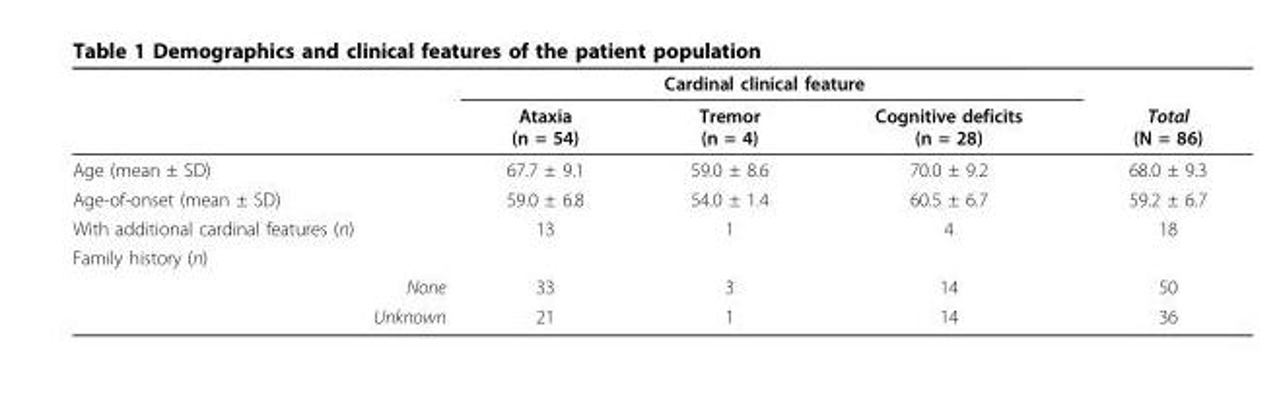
<table><thead><tr><td rowspan="2"></td><td colspan="3">Cardinal clinical feature</td><td rowspan="2">Total (N = 86)</td></tr><tr><td>Ataxia (n = 54)</td><td>Tremor (n = 4)</td><td>Cognitive deficits (n = 28)</td></tr></thead><tbody><tr><td>Age (mean ± SD)</td><td>67.7 ± 9.1</td><td>59.0 ± 8.6</td><td>70.0 ± 9.2</td><td>68.0 ± 9.3</td></tr><tr><td>Age-of-onset (mean ± SD)</td><td>59.0 ± 6.8</td><td>54.0 ± 1.4</td><td>60.5 ± 6.7</td><td>59.2 ± 6.7</td></tr><tr><td>With additional cardinal features (n)</td><td>13</td><td>1</td><td>4</td><td>18</td></tr><tr><td colspan="5">Family history (n)</td></tr><tr><td>None</td><td>33</td><td>3</td><td>14</td><td>50</td></tr><tr><td>Unknown</td><td>21</td><td>1</td><td>14</td><td>36</td></tr></tbody></table>